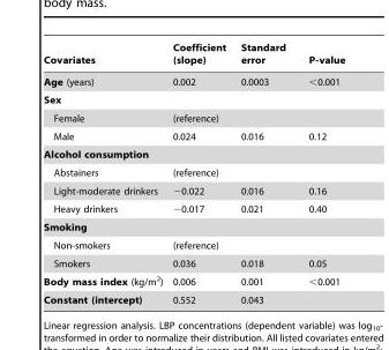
<table><thead><tr><td>Covariates</td><td>Coefficient (slope)</td><td>Standard error</td><td>P-value</td></tr></thead><tbody><tr><td>Age (years)</td><td>0.002</td><td>0.0003</td><td>&lt;0.001</td></tr><tr><td colspan="4">Sex</td></tr><tr><td>Female</td><td>(reference)</td><td></td><td></td></tr><tr><td>Male</td><td>0.024</td><td>0.016</td><td>0.12</td></tr><tr><td colspan="4">Alcohol consumption</td></tr><tr><td>Abstainers</td><td>(reference)</td><td></td><td></td></tr><tr><td>Light-moderate drinkers</td><td>−0.022</td><td>0.016</td><td>0.16</td></tr><tr><td>Heavy drinkers</td><td>−0.017</td><td>0.021</td><td>0.40</td></tr><tr><td colspan="4">Smoking</td></tr><tr><td>Non-smokers</td><td>(reference)</td><td></td><td></td></tr><tr><td>Smokers</td><td>0.036</td><td>0.018</td><td>0.05</td></tr><tr><td>Body mass index (kg/m<sup>2</sup>)</td><td>0.006</td><td>0.001</td><td>&lt;0.001</td></tr><tr><td>Constant (intercept)</td><td>0.552</td><td>0.043</td><td></td></tr></tbody></table>